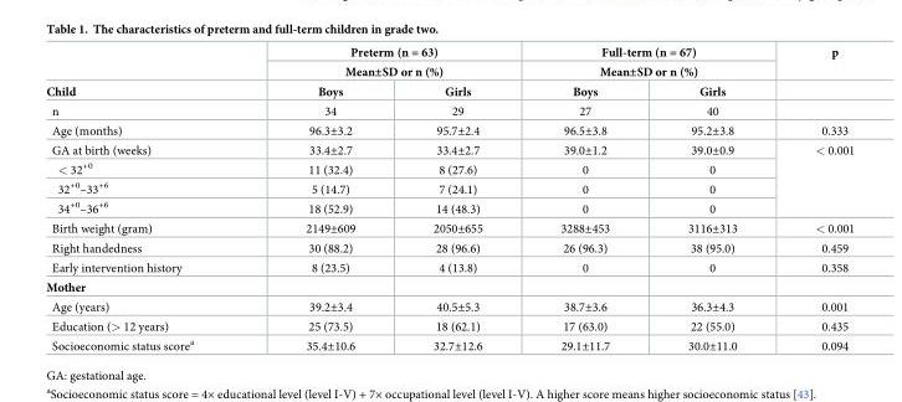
<table><thead><tr><td rowspan="3">Child</td><td rowspan="2" colspan="2">Preterm (n = 63) Mean±SD or n (%)</td><td rowspan="2" colspan="2">Full-term (n = 67) Mean±SD or n (%)</td><td rowspan="3">p</td></tr><tr></tr><tr><td>Boys</td><td>Girls</td><td>Boys</td><td>Girls</td></tr></thead><tbody><tr><td>n</td><td>34</td><td>29</td><td>27</td><td>40</td><td></td></tr><tr><td>Age (months)</td><td>96.3±3.2</td><td>95.7±2.4</td><td>96.5±3.8</td><td>95.2±3.8</td><td>0.333</td></tr><tr><td>GA at birth (weeks)</td><td>33.4±2.7</td><td>33.4±2.7</td><td>39.0±1.2</td><td>39.0±0.9</td><td rowspan="4">&lt; 0.001</td></tr><tr><td>&lt; 32<sup>+0</sup></td><td>11 (32.4)</td><td>8 (27.6)</td><td>0</td><td>0</td></tr><tr><td>32<sup>+0</sup>–33<sup>+6</sup></td><td>5 (14.7)</td><td>7 (24.1)</td><td>0</td><td>0</td></tr><tr><td>34<sup>+0</sup>–36<sup>+6</sup></td><td>18 (52.9)</td><td>14 (48.3)</td><td>0</td><td>0</td></tr><tr><td>Birth weight (gram)</td><td>2149±609</td><td>2050±655</td><td>3288±453</td><td>3116±313</td><td>&lt; 0.001</td></tr><tr><td>Right handedness</td><td>30 (88.2)</td><td>28 (96.6)</td><td>26 (96.3)</td><td>38 (95.0)</td><td>0.459</td></tr><tr><td>Early intervention history</td><td>8 (23.5)</td><td>4 (13.8)</td><td>0</td><td>0</td><td>0.358</td></tr><tr><td colspan="6">Mother</td></tr><tr><td>Age (years)</td><td>39.2±3.4</td><td>40.5±5.3</td><td>38.7±3.6</td><td>36.3±4.3</td><td>0.001</td></tr><tr><td>Education (&gt; 12 years)</td><td>25 (73.5)</td><td>18 (62.1)</td><td>17 (63.0)</td><td>22 (55.0)</td><td>0.435</td></tr><tr><td>Socioeconomic status score<sup>a</sup></td><td>35.4±10.6</td><td>32.7±12.6</td><td>29.1±11.7</td><td>30.0±11.0</td><td>0.094</td></tr></tbody></table>